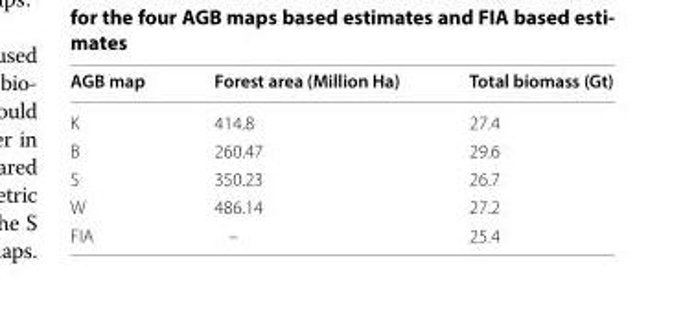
<table><thead><tr><td>AGB map</td><td>Forest area (Million Ha)</td><td>Total biomass (Gt)</td></tr></thead><tbody><tr><td>K</td><td>414.8</td><td>27.4</td></tr><tr><td>B</td><td>260.47</td><td>29.6</td></tr><tr><td>S</td><td>350.23</td><td>26.7</td></tr><tr><td>W</td><td>486.14</td><td>27.2</td></tr><tr><td>FIA</td><td>–</td><td>25.4</td></tr></tbody></table>